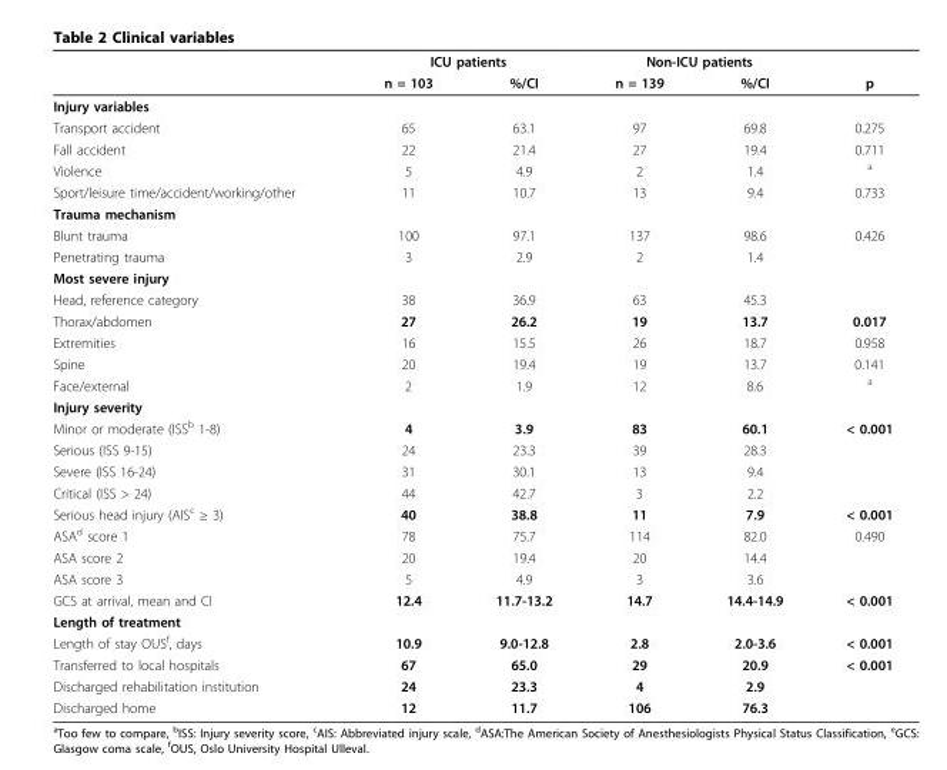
<table><thead><tr><td rowspan="2"></td><td colspan="2">ICU patients</td><td colspan="2">Non-ICU patients</td><td rowspan="2">p</td></tr><tr><td>n = 103</td><td>%/CI</td><td>n = 139</td><td>%/CI</td></tr></thead><tbody><tr><td colspan="6">Injury variables</td></tr><tr><td>Transport accident</td><td>65</td><td>63.1</td><td>97</td><td>69.8</td><td>0.275</td></tr><tr><td>Fall accident</td><td>22</td><td>21.4</td><td>27</td><td>19.4</td><td>0.711</td></tr><tr><td>Violence</td><td>5</td><td>4.9</td><td>2</td><td>1.4</td><td><sup>a</sup></td></tr><tr><td>Sport/leisure time/accident/working/other</td><td>11</td><td>10.7</td><td>13</td><td>9.4</td><td>0.733</td></tr><tr><td colspan="6">Trauma mechanism</td></tr><tr><td>Blunt trauma</td><td>100</td><td>97.1</td><td>137</td><td>98.6</td><td>0.426</td></tr><tr><td>Penetrating trauma</td><td>3</td><td>2.9</td><td>2</td><td>1.4</td><td></td></tr><tr><td colspan="6">Most severe injury</td></tr><tr><td>Head, reference category</td><td>38</td><td>36.9</td><td>63</td><td>45.3</td><td></td></tr><tr><td>Thorax/abdomen</td><td>27</td><td>26.2</td><td>19</td><td>13.7</td><td>0.017</td></tr><tr><td>Extremities</td><td>16</td><td>15.5</td><td>26</td><td>18.7</td><td>0.958</td></tr><tr><td>Spine</td><td>20</td><td>19.4</td><td>19</td><td>13.7</td><td>0.141</td></tr><tr><td>Face/external</td><td>2</td><td>1.9</td><td>12</td><td>8.6</td><td><sup>a</sup></td></tr><tr><td colspan="6">Injury severity</td></tr><tr><td>Minor or moderate (ISS<sup>b</sup> 1-8)</td><td>4</td><td>3.9</td><td>83</td><td>60.1</td><td>&lt; 0.001</td></tr><tr><td>Serious (ISS 9-15)</td><td>24</td><td>23.3</td><td>39</td><td>28.3</td><td></td></tr><tr><td>Severe (ISS 16-24)</td><td>31</td><td>30.1</td><td>13</td><td>9.4</td><td></td></tr><tr><td>Critical (ISS &gt; 24)</td><td>44</td><td>42.7</td><td>3</td><td>2.2</td><td></td></tr><tr><td>Serious head injury (AIS<sup>c</sup> ≥ 3)</td><td>40</td><td>38.8</td><td>11</td><td>7.9</td><td>&lt; 0.001</td></tr><tr><td>ASA<sup>d</sup> score 1</td><td>78</td><td>75.7</td><td>114</td><td>82.0</td><td>0.490</td></tr><tr><td>ASA score 2</td><td>20</td><td>19.4</td><td>20</td><td>14.4</td><td></td></tr><tr><td>ASA score 3</td><td>5</td><td>4.9</td><td>3</td><td>3.6</td><td></td></tr><tr><td>GCS at arrival, mean and CI</td><td>12.4</td><td>11.7-13.2</td><td>14.7</td><td>14.4-14.9</td><td>&lt; 0.001</td></tr><tr><td colspan="6">Length of treatment</td></tr><tr><td>Length of stay OUS<sup>f</sup>, days</td><td>10.9</td><td>9.0-12.8</td><td>2.8</td><td>2.0-3.6</td><td>&lt; 0.001</td></tr><tr><td>Transferred to local hospitals</td><td>67</td><td>65.0</td><td>29</td><td>20.9</td><td>&lt; 0.001</td></tr><tr><td>Discharged rehabilitation institution</td><td>24</td><td>23.3</td><td>4</td><td>2.9</td><td></td></tr><tr><td>Discharged home</td><td>12</td><td>11.7</td><td>106</td><td>76.3</td><td></td></tr></tbody></table>